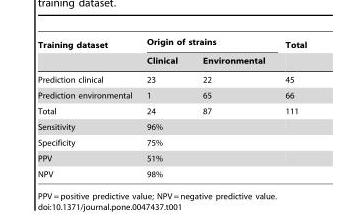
<table><thead><tr><td rowspan="2">Training dataset</td><td colspan="2">Origin of strains</td><td rowspan="2">Total</td></tr><tr><td>Clinical</td><td>Environmental</td></tr></thead><tbody><tr><td>Prediction clinical</td><td>23</td><td>22</td><td>45</td></tr><tr><td>Prediction environmental</td><td>1</td><td>65</td><td>66</td></tr><tr><td>Total</td><td>24</td><td>87</td><td>111</td></tr><tr><td>Sensitivity</td><td>96%</td><td></td><td></td></tr><tr><td>Specificity</td><td>75%</td><td></td><td></td></tr><tr><td>PPV</td><td>51%</td><td></td><td></td></tr><tr><td>NPV</td><td>98%</td><td></td><td></td></tr></tbody></table>